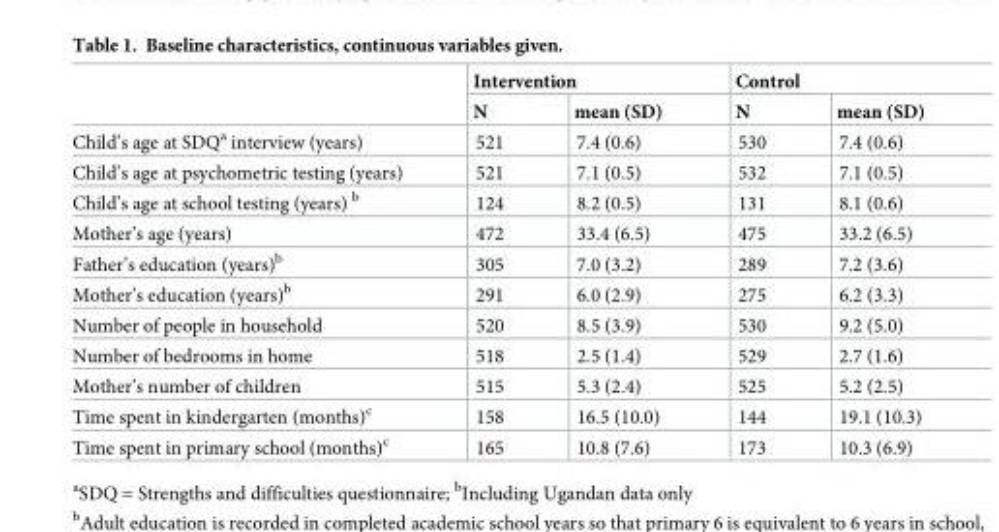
<table><thead><tr><td rowspan="2"></td><td colspan="2">Intervention</td><td colspan="2">Control</td></tr><tr><td>N</td><td>mean (SD)</td><td>N</td><td>mean (SD)</td></tr></thead><tbody><tr><td>Child’s age at SDQ<sup>a</sup> interview (years)</td><td>521</td><td>7.4 (0.6)</td><td>530</td><td>7.4 (0.6)</td></tr><tr><td>Child’s age at psychometric testing (years)</td><td>521</td><td>7.1 (0.5)</td><td>532</td><td>7.1 (0.5)</td></tr><tr><td>Child’s age at school testing (years) <sup>b</sup></td><td>124</td><td>8.2 (0.5)</td><td>131</td><td>8.1 (0.6)</td></tr><tr><td>Mother’s age (years)</td><td>472</td><td>33.4 (6.5)</td><td>475</td><td>33.2 (6.5)</td></tr><tr><td>Father’s education (years)<sup>b</sup></td><td>305</td><td>7.0 (3.2)</td><td>289</td><td>7.2 (3.6)</td></tr><tr><td>Mother’s education (years)<sup>b</sup></td><td>291</td><td>6.0 (2.9)</td><td>275</td><td>6.2 (3.3)</td></tr><tr><td>Number of people in household</td><td>520</td><td>8.5 (3.9)</td><td>530</td><td>9.2 (5.0)</td></tr><tr><td>Number of bedrooms in home</td><td>518</td><td>2.5 (1.4)</td><td>529</td><td>2.7 (1.6)</td></tr><tr><td>Mother’s number of children</td><td>515</td><td>5.3 (2.4)</td><td>525</td><td>5.2 (2.5)</td></tr><tr><td>Time spent in kindergarten (months)<sup>c</sup></td><td>158</td><td>16.5 (10.0)</td><td>144</td><td>19.1 (10.3)</td></tr><tr><td>Time spent in primary school (months)<sup>c</sup></td><td>165</td><td>10.8 (7.6)</td><td>173</td><td>10.3 (6.9)</td></tr></tbody></table>